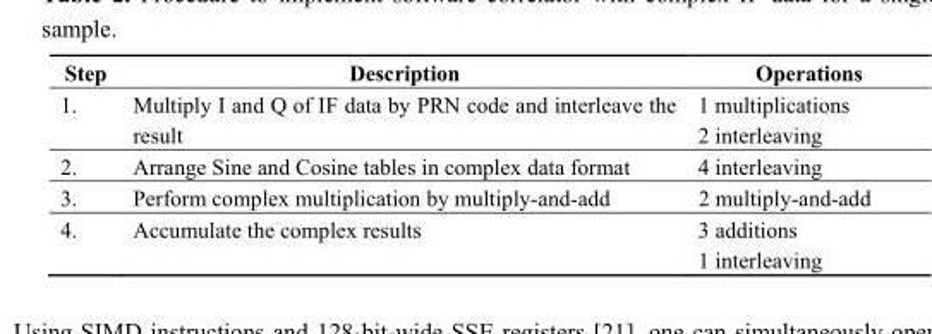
<table><thead><tr><td>Step</td><td>Description</td><td>Operations</td></tr></thead><tbody><tr><td rowspan="2">1.</td><td rowspan="2">Multiply I and Q of IF data by PRN code and interleave the result</td><td>1 multiplications</td></tr><tr><td>2 interleaving</td></tr><tr><td>2.</td><td>Arrange Sine and Cosine tables in complex data format</td><td>4 interleaving</td></tr><tr><td>3.</td><td>Perform complex multiplication by multiply-and-add</td><td>2 multiply-and-add</td></tr><tr><td rowspan="2">4.</td><td rowspan="2">Accumulate the complex results</td><td>3 additions</td></tr><tr><td>1 interleaving</td></tr></tbody></table>